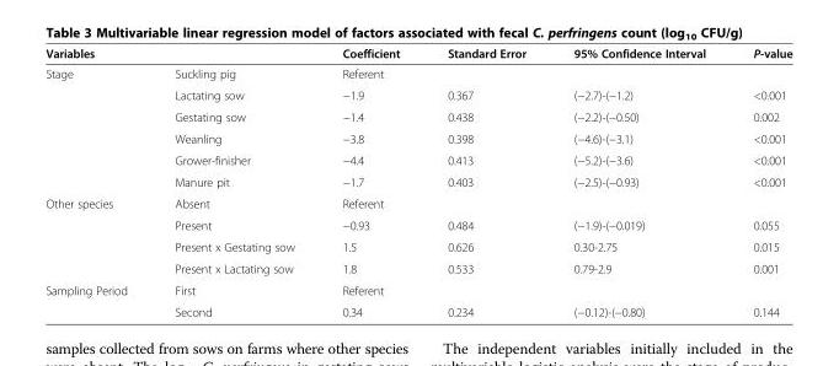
<table><thead><tr><td colspan="2">Variables</td><td>Coefficient</td><td>Standard Error</td><td>95% Confidence Interval</td><td>P-value</td></tr><tr><td>Stage</td><td>Suckling pig</td><td colspan="4">Referent</td></tr></thead><tbody><tr><td></td><td>Lactating sow</td><td>−1.9</td><td>0.367</td><td>(−2.7)-(−1.2)</td><td>&lt;0.001</td></tr><tr><td></td><td>Gestating sow</td><td>−1.4</td><td>0.438</td><td>(−2.2)-(−0.50)</td><td>0.002</td></tr><tr><td></td><td>Weanling</td><td>−3.8</td><td>0.398</td><td>(−4.6)-(−3.1)</td><td>&lt;0.001</td></tr><tr><td></td><td>Grower-finisher</td><td>−4.4</td><td>0.413</td><td>(−5.2)-(−3.6)</td><td>&lt;0.001</td></tr><tr><td></td><td>Manure pit</td><td>−1.7</td><td>0.403</td><td>(−2.5)-(−0.93)</td><td>&lt;0.001</td></tr><tr><td rowspan="4">Other species</td><td>Absent</td><td colspan="4">Referent</td></tr><tr><td>Present</td><td>−0.93</td><td>0.484</td><td>(−1.9)-(−0.019)</td><td>0.055</td></tr><tr><td>Present x Gestating sow</td><td>1.5</td><td>0.626</td><td>0.30-2.75</td><td>0.015</td></tr><tr><td>Present x Lactating sow</td><td>1.8</td><td>0.533</td><td>0.79-2.9</td><td>0.001</td></tr><tr><td rowspan="2">Sampling Period</td><td>First</td><td colspan="4">Referent</td></tr><tr><td>Second</td><td>0.34</td><td>0.234</td><td>(−0.12)-(−0.80)</td><td>0.144</td></tr></tbody></table>